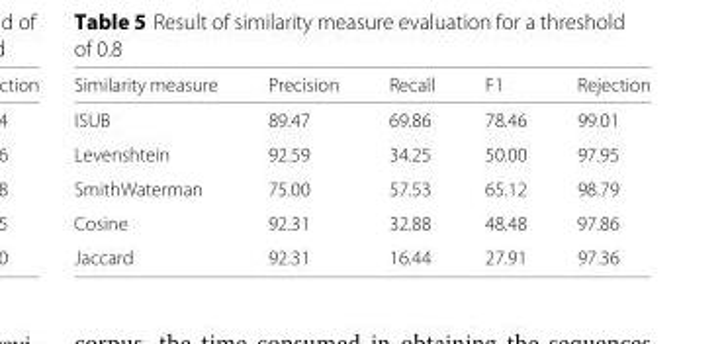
<table><thead><tr><td>Similarity measure</td><td>Precision</td><td>Recall</td><td>F1</td><td>Rejection</td></tr></thead><tbody><tr><td>ISUB</td><td>89.47</td><td>69.86</td><td>78.46</td><td>99.01</td></tr><tr><td>Levenshtein</td><td>92.59</td><td>34.25</td><td>50.00</td><td>97.95</td></tr><tr><td>SmithWaterman</td><td>75.00</td><td>57.53</td><td>65.12</td><td>98.79</td></tr><tr><td>Cosine</td><td>92.31</td><td>32.88</td><td>48.48</td><td>97.86</td></tr><tr><td>Jaccard</td><td>92.31</td><td>16.44</td><td>27.91</td><td>97.36</td></tr></tbody></table>